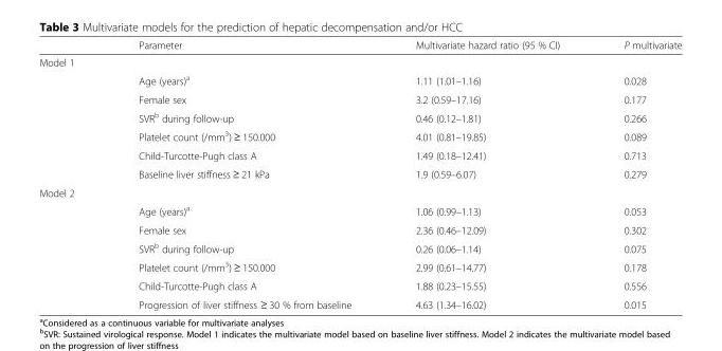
<table><thead><tr><td></td><td>Parameter</td><td>Multivariate hazard ratio (95 % CI)</td><td>P multivariate</td></tr></thead><tbody><tr><td colspan="4">Model 1</td></tr><tr><td></td><td>Age (years)<sup>a</sup></td><td>1.11 (1.01–1.16)</td><td>0.028</td></tr><tr><td></td><td>Female sex</td><td>3.2 (0.59–17.16)</td><td>0.177</td></tr><tr><td></td><td>SVR<sup>b</sup> during follow-up</td><td>0.46 (0.12–1.81)</td><td>0.266</td></tr><tr><td></td><td>Platelet count (/mm<sup>3</sup>) ≥ 150.000</td><td>4.01 (0.81–19.85)</td><td>0.089</td></tr><tr><td></td><td>Child-Turcotte-Pugh class A</td><td>1.49 (0.18–12.41)</td><td>0.713</td></tr><tr><td></td><td>Baseline liver stiffness ≥ 21 kPa</td><td>1.9 (0.59–6.07)</td><td>0.279</td></tr><tr><td colspan="4">Model 2</td></tr><tr><td></td><td>Age (years)<sup>a</sup></td><td>1.06 (0.99–1.13)</td><td>0.053</td></tr><tr><td></td><td>Female sex</td><td>2.36 (0.46–12.09)</td><td>0.302</td></tr><tr><td></td><td>SVR<sup>b</sup> during follow-up</td><td>0.26 (0.06–1.14)</td><td>0.075</td></tr><tr><td></td><td>Platelet count (/mm<sup>3</sup>) ≥ 150.000</td><td>2.99 (0.61–14.77)</td><td>0.178</td></tr><tr><td></td><td>Child-Turcotte-Pugh class A</td><td>1.88 (0.23–15.55)</td><td>0.556</td></tr><tr><td></td><td>Progression of liver stiffness ≥ 30 % from baseline</td><td>4.63 (1.34–16.02)</td><td>0.015</td></tr></tbody></table>